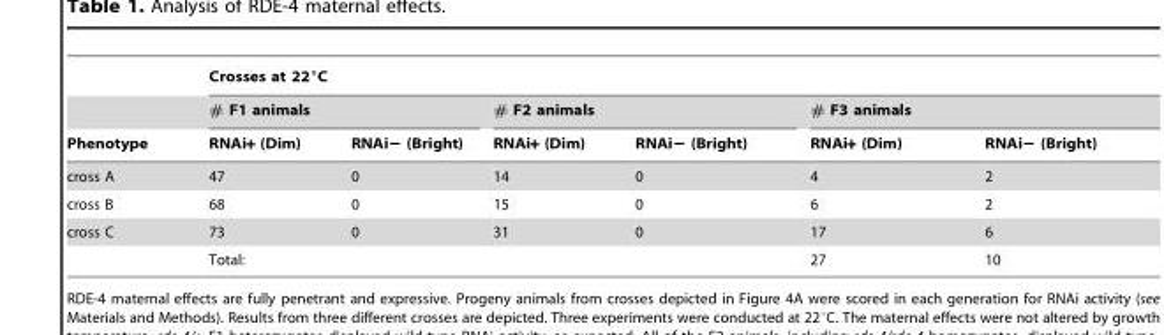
<table><thead><tr><td rowspan="3">Phenotype</td><td colspan="6">Crosses at 22°C</td></tr><tr><td colspan="2"># F1 animals</td><td colspan="2"># F2 animals</td><td colspan="2"># F3 animals</td></tr><tr><td>RNAi+ (Dim)</td><td>RNAi− (Bright)</td><td>RNAi+ (Dim)</td><td>RNAi− (Bright)</td><td>RNAi+ (Dim)</td><td>RNAi− (Bright)</td></tr></thead><tbody><tr><td>cross A</td><td>47</td><td>0</td><td>14</td><td>0</td><td>4</td><td>2</td></tr><tr><td>cross B</td><td>68</td><td>0</td><td>15</td><td>0</td><td>6</td><td>2</td></tr><tr><td rowspan="2">cross C</td><td>73</td><td>0</td><td>31</td><td>0</td><td>17</td><td>6</td></tr><tr><td colspan="4">Total:</td><td>27</td><td>10</td></tr></tbody></table>